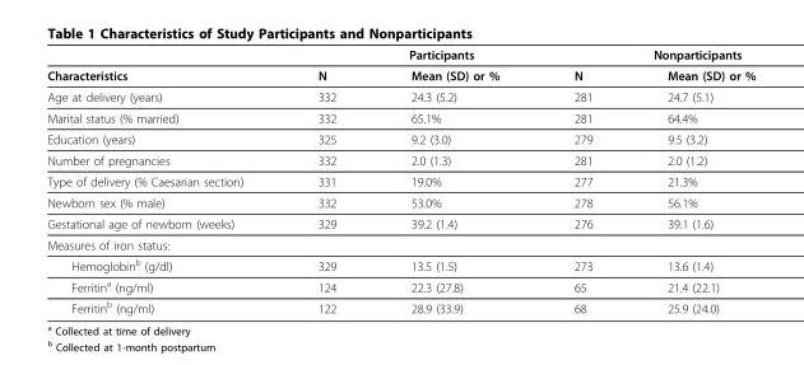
<table><thead><tr><td rowspan="2">Characteristics</td><td colspan="2">Participants</td><td colspan="2">Nonparticipants</td></tr><tr><td>N</td><td>Mean (SD) or %</td><td>N</td><td>Mean (SD) or %</td></tr></thead><tbody><tr><td>Age at delivery (years)</td><td>332</td><td>24.3 (5.2)</td><td>281</td><td>24.7 (5.1)</td></tr><tr><td>Marital status (% married)</td><td>332</td><td>65.1%</td><td>281</td><td>64.4%</td></tr><tr><td>Education (years)</td><td>325</td><td>9.2 (3.0)</td><td>279</td><td>9.5 (3.2)</td></tr><tr><td>Number of pregnancies</td><td>332</td><td>2.0 (1.3)</td><td>281</td><td>2.0 (1.2)</td></tr><tr><td>Type of delivery (% Caesarian section)</td><td>331</td><td>19.0%</td><td>277</td><td>21.3%</td></tr><tr><td>Newborn sex (% male)</td><td>332</td><td>53.0%</td><td>278</td><td>56.1%</td></tr><tr><td>Gestational age of newborn (weeks)</td><td>329</td><td>39.2 (1.4)</td><td>276</td><td>39.1 (1.6)</td></tr><tr><td colspan="5">Measures of iron status:</td></tr><tr><td>Hemoglobin<sup>b</sup> (g/dl)</td><td>329</td><td>13.5 (1.5)</td><td>273</td><td>13.6 (1.4)</td></tr><tr><td>Ferritin<sup>a</sup> (ng/ml)</td><td>124</td><td>22.3 (27.8)</td><td>65</td><td>21.4 (22.1)</td></tr><tr><td>Ferritin<sup>b</sup> (ng/ml)</td><td>122</td><td>28.9 (33.9)</td><td>68</td><td>25.9 (24.0)</td></tr></tbody></table>